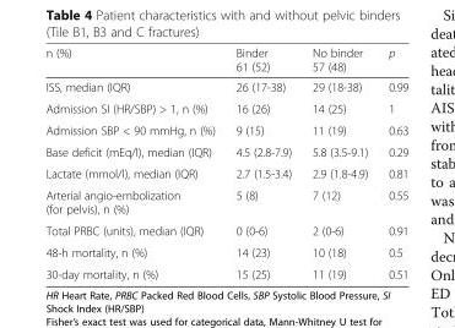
<table><thead><tr><td>n (%)</td><td>Binder 61 (52)</td><td>No binder 57 (48)</td><td>p</td></tr></thead><tbody><tr><td>ISS, median (IQR)</td><td>26 (17-38)</td><td>29 (18-38)</td><td>0.99</td></tr><tr><td>Admission SI (HR/SBP) &gt; 1, n (%)</td><td>16 (26)</td><td>14 (25)</td><td>1</td></tr><tr><td>Admission SBP &lt; 90 mmHg, n (%)</td><td>9 (15)</td><td>11 (19)</td><td>0.63</td></tr><tr><td>Base deficit (mEq/l), median (IQR)</td><td>4.5 (2.8-7.9)</td><td>5.8 (3.5-9.1)</td><td>0.29</td></tr><tr><td>Lactate (mmol/l), median (IQR)</td><td>2.7 (1.5-3.4)</td><td>2.9 (1.8-4.9)</td><td>0.81</td></tr><tr><td>Arterial angio-embolization (for pelvis), n (%)</td><td>5 (8)</td><td>7 (12)</td><td>0.55</td></tr><tr><td>Total PRBC (units), median (IQR)</td><td>0 (0-6)</td><td>2 (0-6)</td><td>0.91</td></tr><tr><td>48-h mortality, n (%)</td><td>14 (23)</td><td>10 (18)</td><td>0.5</td></tr><tr><td>30-day mortality, n (%)</td><td>15 (25)</td><td>11 (19)</td><td>0.51</td></tr></tbody></table>